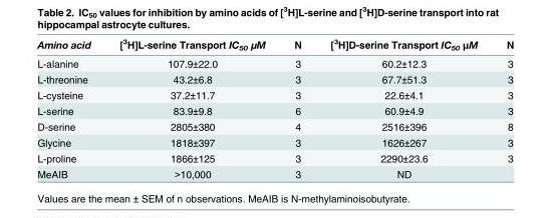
<table><thead><tr><td>Amino acid</td><td>[<sup>3</sup>H]L-serine Transport IC<sub>50</sub> μM</td><td>N</td><td>[<sup>3</sup>H]D-serine Transport IC<sub>50</sub> μM</td><td>N</td></tr></thead><tbody><tr><td>L-alanine</td><td>107.9±22.0</td><td>3</td><td>60.2±12.3</td><td>3</td></tr><tr><td>L-threonine</td><td>43.2±6.8</td><td>3</td><td>67.7±51.3</td><td>3</td></tr><tr><td>L-cysteine</td><td>37.2±11.7</td><td>3</td><td>22.6±4.1</td><td>3</td></tr><tr><td>L-serine</td><td>83.9±9.8</td><td>6</td><td>60.9±4.9</td><td>3</td></tr><tr><td>D-serine</td><td>2805±380</td><td>4</td><td>2516±396</td><td>8</td></tr><tr><td>Glycine</td><td>1818±397</td><td>3</td><td>1626±267</td><td>3</td></tr><tr><td>L-proline</td><td>1866±125</td><td>3</td><td>2290±23.6</td><td>3</td></tr><tr><td>MeAIB</td><td>&gt;10,000</td><td>3</td><td>ND</td><td></td></tr></tbody></table>